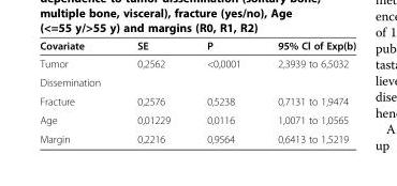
<table><thead><tr><td>Covariate</td><td>SE</td><td>P</td><td>95% Cl of Exp(b)</td></tr></thead><tbody><tr><td>Tumor</td><td>0,2562</td><td>&lt;0,0001</td><td>2,3939 to 6,5032</td></tr><tr><td colspan="4">Dissemination</td></tr><tr><td>Fracture</td><td>0,2576</td><td>0,5238</td><td>0,7131 to 1,9474</td></tr><tr><td>Age</td><td>0,01229</td><td>0,0116</td><td>1,0071 to 1,0565</td></tr><tr><td>Margin</td><td>0,2216</td><td>0,9564</td><td>0,6413 to 1,5219</td></tr></tbody></table>